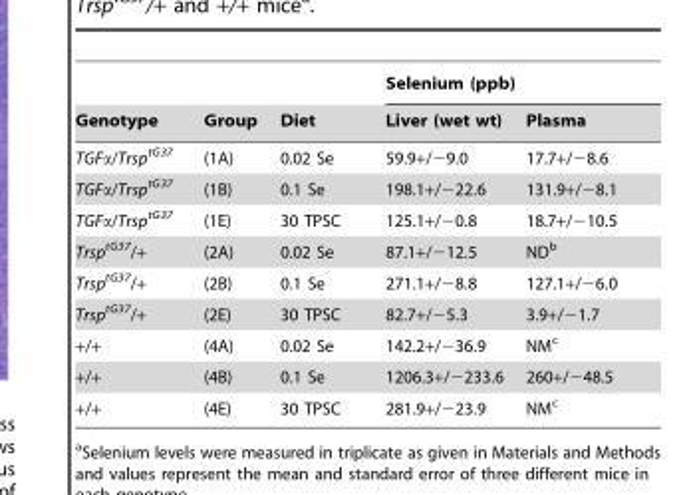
<table><thead><tr><td rowspan="2">Genotype</td><td rowspan="2">Group</td><td rowspan="2">Diet</td><td colspan="2">Selenium (ppb)</td></tr><tr><td>Liver (wet wt)</td><td>Plasma</td></tr></thead><tbody><tr><td>TGFα/Trsp<sup>tG37</sup></td><td>(1A)</td><td>0.02 Se</td><td>59.9+/−9.0</td><td>17.7+/−8.6</td></tr><tr><td>TGFα/Trsp<sup>tG37</sup></td><td>(1B)</td><td>0.1 Se</td><td>198.1+/−22.6</td><td>131.9+/−8.1</td></tr><tr><td>TGFα/Trsp<sup>tG37</sup></td><td>(1E)</td><td>30 TPSC</td><td>125.1+/−0.8</td><td>18.7+/−10.5</td></tr><tr><td>Trsp<sup>tG37</sup>/+</td><td>(2A)</td><td>0.02 Se</td><td>87.1+/−12.5</td><td>ND<sup>b</sup></td></tr><tr><td>Trsp<sup>tG37</sup>/+</td><td>(2B)</td><td>0.1 Se</td><td>271.1+/−8.8</td><td>127.1+/−6.0</td></tr><tr><td>Trsp<sup>tG37</sup>/+</td><td>(2E)</td><td>30 TPSC</td><td>82.7+/−5.3</td><td>3.9+/−1.7</td></tr><tr><td>+/+</td><td>(4A)</td><td>0.02 Se</td><td>142.2+/−36.9</td><td>NM<sup>c</sup></td></tr><tr><td>+/+</td><td>(4B)</td><td>0.1 Se</td><td>1206.3+/−233.6</td><td>260+/−48.5</td></tr><tr><td>+/+</td><td>(4E)</td><td>30 TPSC</td><td>281.9+/−23.9</td><td>NM<sup>c</sup></td></tr></tbody></table>